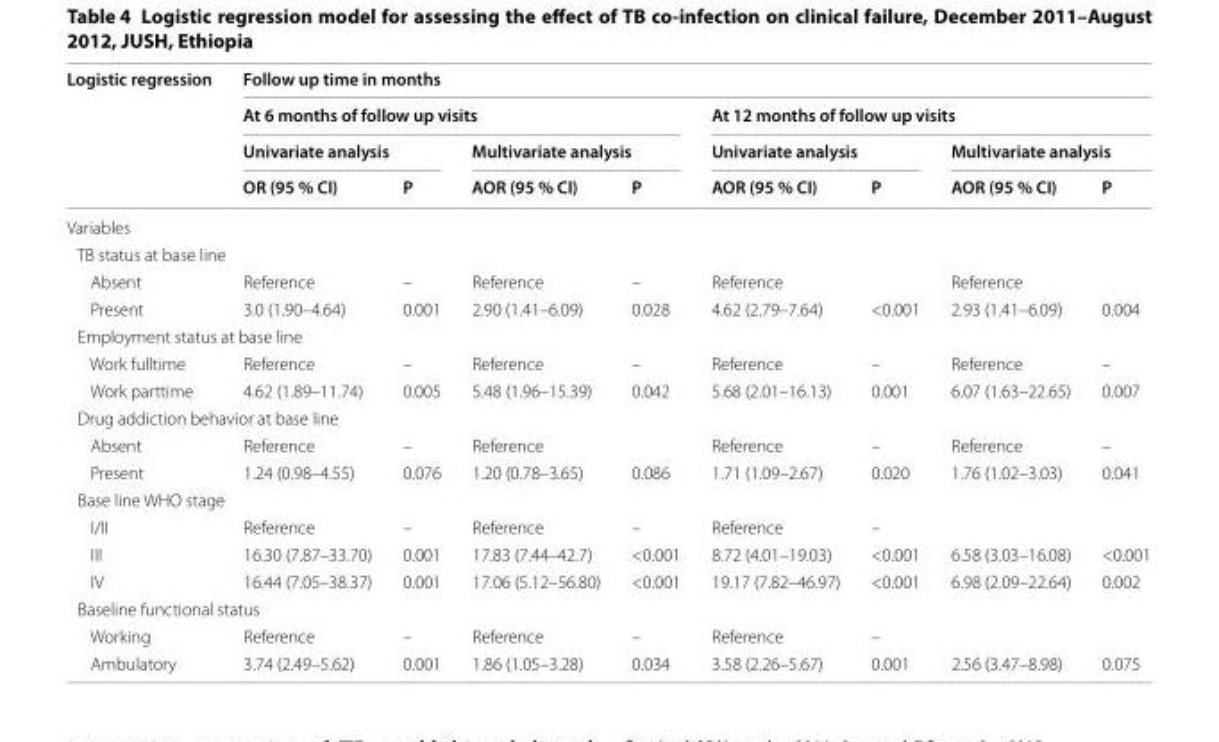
<table><thead><tr><td rowspan="4">Logistic regression</td><td colspan="8">Follow up time in months</td></tr><tr><td colspan="4">At 6 months of follow up visits</td><td colspan="4">At 12 months of follow up visits</td></tr><tr><td colspan="2">Univariate analysis</td><td colspan="2">Multivariate analysis</td><td colspan="2">Univariate analysis</td><td colspan="2">Multivariate analysis</td></tr><tr><td>OR (95 % CI)</td><td>P</td><td>AOR (95 % CI)</td><td>P</td><td>AOR (95 % CI)</td><td>P</td><td>AOR (95 % CI)</td><td>P</td></tr></thead><tbody><tr><td colspan="9">Variables</td></tr><tr><td colspan="9">TB status at base line</td></tr><tr><td>Absent</td><td>Reference</td><td>–</td><td>Reference</td><td>–</td><td>Reference</td><td></td><td>Reference</td><td></td></tr><tr><td>Present</td><td>3.0 (1.90–4.64)</td><td>0.001</td><td>2.90 (1.41–6.09)</td><td>0.028</td><td>4.62 (2.79–7.64)</td><td>&lt;0.001</td><td>2.93 (1.41–6.09)</td><td>0.004</td></tr><tr><td colspan="9">Employment status at base line</td></tr><tr><td>Work fulltime</td><td>Reference</td><td>–</td><td>Reference</td><td>–</td><td>Reference</td><td>–</td><td>Reference</td><td>–</td></tr><tr><td>Work parttime</td><td>4.62 (1.89–11.74)</td><td>0.005</td><td>5.48 (1.96–15.39)</td><td>0.042</td><td>5.68 (2.01–16.13)</td><td>0.001</td><td>6.07 (1.63–22.65)</td><td>0.007</td></tr><tr><td colspan="9">Drug addiction behavior at base line</td></tr><tr><td>Absent</td><td>Reference</td><td>–</td><td>Reference</td><td></td><td>Reference</td><td>–</td><td>Reference</td><td>–</td></tr><tr><td>Present</td><td>1.24 (0.98–4.55)</td><td>0.076</td><td>1.20 (0.78–3.65)</td><td>0.086</td><td>1.71 (1.09–2.67)</td><td>0.020</td><td>1.76 (1.02–3.03)</td><td>0.041</td></tr><tr><td colspan="9">Base line WHO stage</td></tr><tr><td>I/II</td><td>Reference</td><td>–</td><td>Reference</td><td>–</td><td>Reference</td><td>–</td><td></td><td></td></tr><tr><td>III</td><td>16.30 (7.87–33.70)</td><td>0.001</td><td>17.83 (7.44–42.7)</td><td>&lt;0.001</td><td>8.72 (4.01–19.03)</td><td>&lt;0.001</td><td>6.58 (3.03–16.08)</td><td>&lt;0.001</td></tr><tr><td>IV</td><td>16.44 (7.05–38.37)</td><td>0.001</td><td>17.06 (5.12–56.80)</td><td>&lt;0.001</td><td>19.17 (7.82–46.97)</td><td>&lt;0.001</td><td>6.98 (2.09–22.64)</td><td>0.002</td></tr><tr><td colspan="9">Baseline functional status</td></tr><tr><td>Working</td><td>Reference</td><td>–</td><td>Reference</td><td>–</td><td>Reference</td><td>–</td><td></td><td></td></tr><tr><td>Ambulatory</td><td>3.74 (2.49–5.62)</td><td>0.001</td><td>1.86 (1.05–3.28)</td><td>0.034</td><td>3.58 (2.26–5.67)</td><td>0.001</td><td>2.56 (3.47–8.98)</td><td>0.075</td></tr></tbody></table>